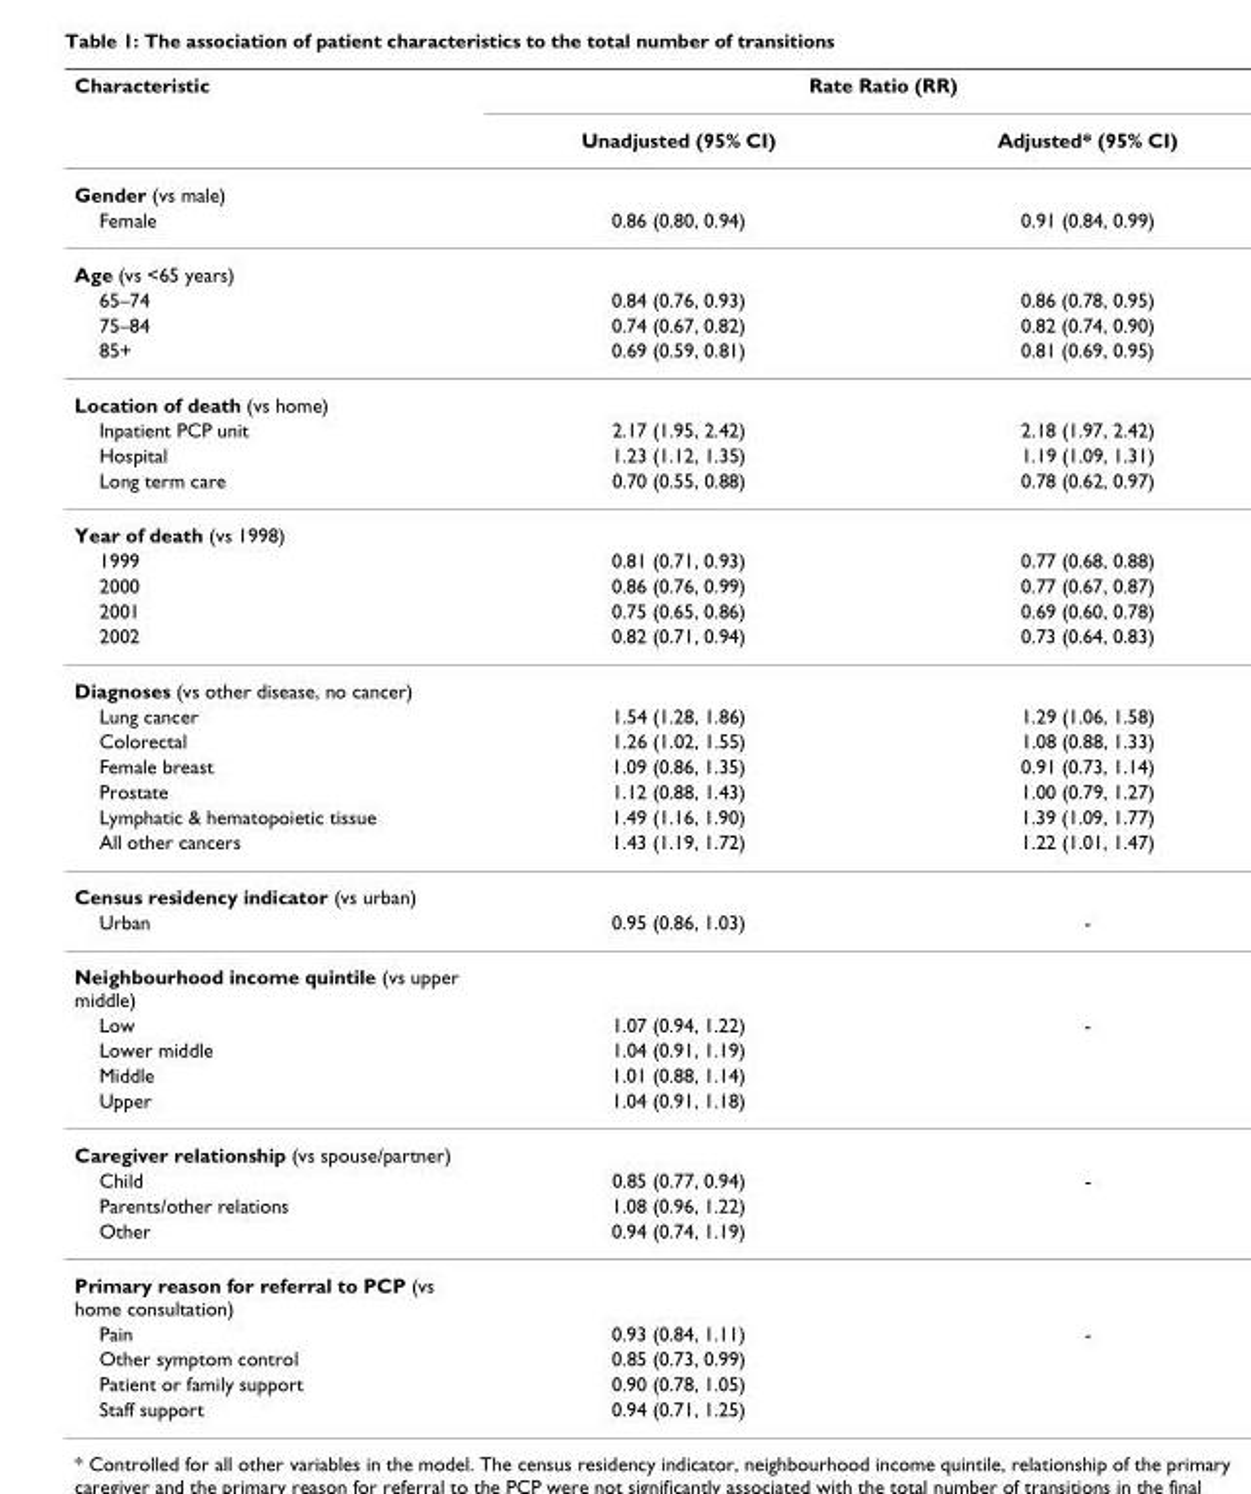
<table><thead><tr><td rowspan="2">Characteristic</td><td colspan="2">Rate Ratio (RR)</td></tr><tr><td>Unadjusted (95% CI)</td><td>Adjusted* (95% CI)</td></tr></thead><tbody><tr><td colspan="3">Gender (vs male)</td></tr><tr><td>Female</td><td>0.86 (0.80, 0.94)</td><td>0.91 (0.84, 0.99)</td></tr><tr><td colspan="3">Age (vs &lt;65 years)</td></tr><tr><td>65–74</td><td>0.84 (0.76, 0.93)</td><td>0.86 (0.78, 0.95)</td></tr><tr><td>75–84</td><td>0.74 (0.67, 0.82)</td><td>0.82 (0.74, 0.90)</td></tr><tr><td>85+</td><td>0.69 (0.59, 0.81)</td><td>0.81 (0.69, 0.95)</td></tr><tr><td colspan="3">Location of death (vs home)</td></tr><tr><td>Inpatient PCP unit</td><td>2.17 (1.95, 2.42)</td><td>2.18 (1.97, 2.42)</td></tr><tr><td>Hospital</td><td>1.23 (1.12, 1.35)</td><td>1.19 (1.09, 1.31)</td></tr><tr><td>Long term care</td><td>0.70 (0.55, 0.88)</td><td>0.78 (0.62, 0.97)</td></tr><tr><td colspan="3">Year of death (vs 1998)</td></tr><tr><td>1999</td><td>0.81 (0.71, 0.93)</td><td>0.77 (0.68, 0.88)</td></tr><tr><td>2000</td><td>0.86 (0.76, 0.99)</td><td>0.77 (0.67, 0.87)</td></tr><tr><td>2001</td><td>0.75 (0.65, 0.86)</td><td>0.69 (0.60, 0.78)</td></tr><tr><td>2002</td><td>0.82 (0.71, 0.94)</td><td>0.73 (0.64, 0.83)</td></tr><tr><td colspan="3">Diagnoses (vs other disease, no cancer)</td></tr><tr><td>Lung cancer</td><td>1.54 (1.28, 1.86)</td><td>1.29 (1.06, 1.58)</td></tr><tr><td>Colorectal</td><td>1.26 (1.02, 1.55)</td><td>1.08 (0.88, 1.33)</td></tr><tr><td>Female breast</td><td>1.09 (0.86, 1.35)</td><td>0.91 (0.73, 1.14)</td></tr><tr><td>Prostate</td><td>1.12 (0.88, 1.43)</td><td>1.00 (0.79, 1.27)</td></tr><tr><td>Lymphatic &amp; hematopoietic tissue</td><td>1.49 (1.16, 1.90)</td><td>1.39 (1.09, 1.77)</td></tr><tr><td>All other cancers</td><td>1.43 (1.19, 1.72)</td><td>1.22 (1.01, 1.47)</td></tr><tr><td colspan="3">Census residency indicator (vs urban)</td></tr><tr><td>Urban</td><td>0.95 (0.86, 1.03)</td><td>-</td></tr><tr><td colspan="3">Neighbourhood income quintile (vs upper middle)</td></tr><tr><td>Low</td><td>1.07 (0.94, 1.22)</td><td>-</td></tr><tr><td>Lower middle</td><td>1.04 (0.91, 1.19)</td><td></td></tr><tr><td>Middle</td><td>1.01 (0.88, 1.14)</td><td></td></tr><tr><td>Upper</td><td>1.04 (0.91, 1.18)</td><td></td></tr><tr><td colspan="3">Caregiver relationship (vs spouse/partner)</td></tr><tr><td>Child</td><td>0.85 (0.77, 0.94)</td><td>-</td></tr><tr><td>Parents/other relations</td><td>1.08 (0.96, 1.22)</td><td></td></tr><tr><td>Other</td><td>0.94 (0.74, 1.19)</td><td></td></tr><tr><td colspan="3">Primary reason for referral to PCP (vs home consultation)</td></tr><tr><td>Pain</td><td>0.93 (0.84, 1.11)</td><td>-</td></tr><tr><td>Other symptom control</td><td>0.85 (0.73, 0.99)</td><td></td></tr><tr><td>Patient or family support</td><td>0.90 (0.78, 1.05)</td><td></td></tr><tr><td>Staff support</td><td>0.94 (0.71, 1.25)</td><td></td></tr></tbody></table>